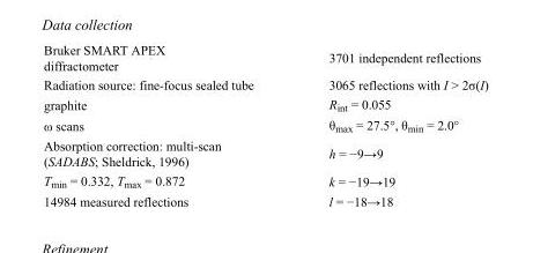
<table><tbody><tr><td>Bruker SMART APEX diffractometer</td><td>3701 independent reflections</td></tr><tr><td>Radiation source: fine-focus sealed tube</td><td>3065 reflections with I &gt; 2σ(I)</td></tr><tr><td>graphite</td><td>R<sub>int</sub> = 0.055</td></tr><tr><td>ω scans</td><td>θ<sub>max</sub> = 27.5°, θ<sub>min</sub> = 2.0°</td></tr><tr><td>Absorption correction: multi-scan (SADABS; Sheldrick, 1996)</td><td>h = −9→9</td></tr><tr><td>T<sub>min</sub> = 0.332, T<sub>max</sub> = 0.872</td><td>k = −19→19</td></tr><tr><td>14984 measured reflections</td><td>l = −18→18</td></tr></tbody></table>